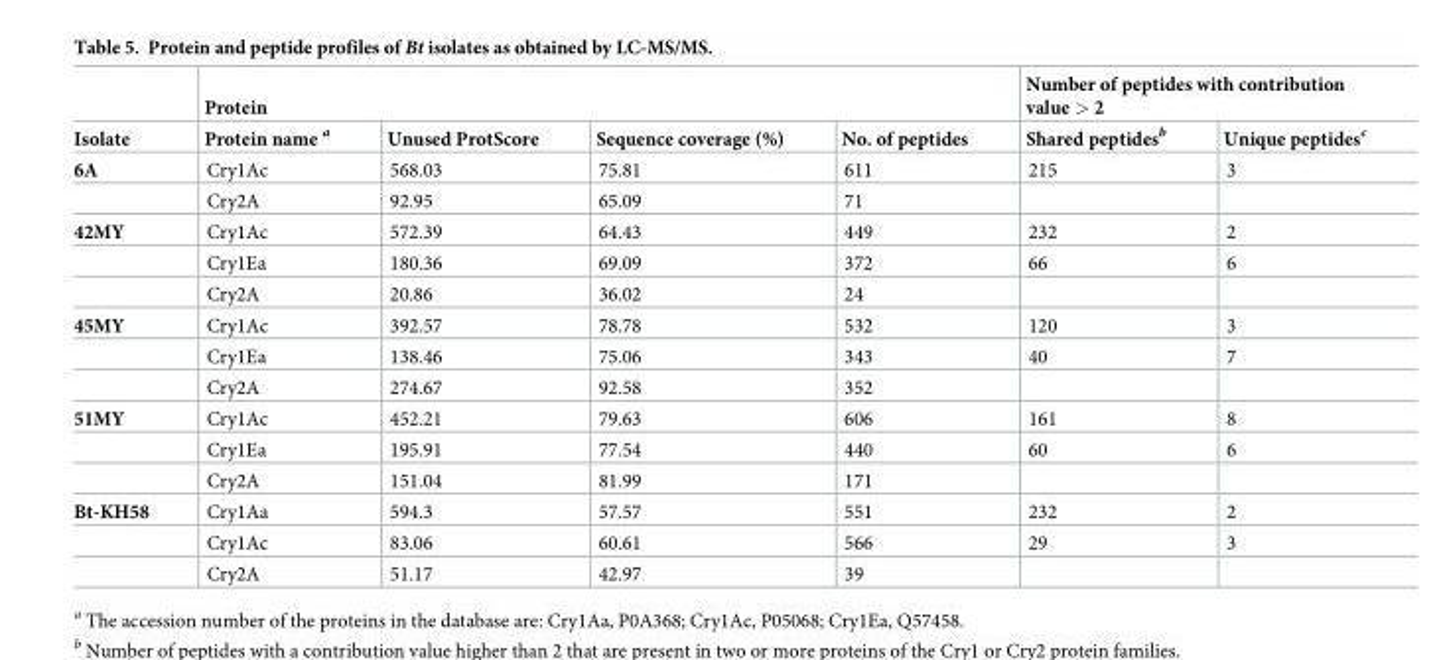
<table><thead><tr><td rowspan="2">Isolate</td><td colspan="4">Protein</td><td colspan="2">Number of peptides with contribution value &gt; 2</td></tr><tr><td>Protein name <sup>a</sup></td><td>Unused ProtScore</td><td>Sequence coverage (%)</td><td>No. of peptides</td><td>Shared peptides<sup>b</sup></td><td>Unique peptides<sup>c</sup></td></tr></thead><tbody><tr><td rowspan="2">6A</td><td>Cry1Ac</td><td>568.03</td><td>75.81</td><td>611</td><td>215</td><td>3</td></tr><tr><td>Cry2A</td><td>92.95</td><td>65.09</td><td>71</td><td></td><td></td></tr><tr><td rowspan="3">42MY</td><td>Cry1Ac</td><td>572.39</td><td>64.43</td><td>449</td><td>232</td><td>2</td></tr><tr><td>Cry1Ea</td><td>180.36</td><td>69.09</td><td>372</td><td>66</td><td>6</td></tr><tr><td>Cry2A</td><td>20.86</td><td>36.02</td><td>24</td><td></td><td></td></tr><tr><td rowspan="3">45MY</td><td>Cry1Ac</td><td>392.57</td><td>78.78</td><td>532</td><td>120</td><td>3</td></tr><tr><td>Cry1Ea</td><td>138.46</td><td>75.06</td><td>343</td><td>40</td><td>7</td></tr><tr><td>Cry2A</td><td>274.67</td><td>92.58</td><td>352</td><td></td><td></td></tr><tr><td rowspan="3">51MY</td><td>Cry1Ac</td><td>452.21</td><td>79.63</td><td>606</td><td>161</td><td>8</td></tr><tr><td>Cry1Ea</td><td>195.91</td><td>77.54</td><td>440</td><td>60</td><td>6</td></tr><tr><td>Cry2A</td><td>151.04</td><td>81.99</td><td>171</td><td></td><td></td></tr><tr><td rowspan="3">Bt-KH58</td><td>Cry1Aa</td><td>594.3</td><td>57.57</td><td>551</td><td>232</td><td>2</td></tr><tr><td>Cry1Ac</td><td>83.06</td><td>60.61</td><td>566</td><td>29</td><td>3</td></tr><tr><td>Cry2A</td><td>51.17</td><td>42.97</td><td>39</td><td></td><td></td></tr></tbody></table>